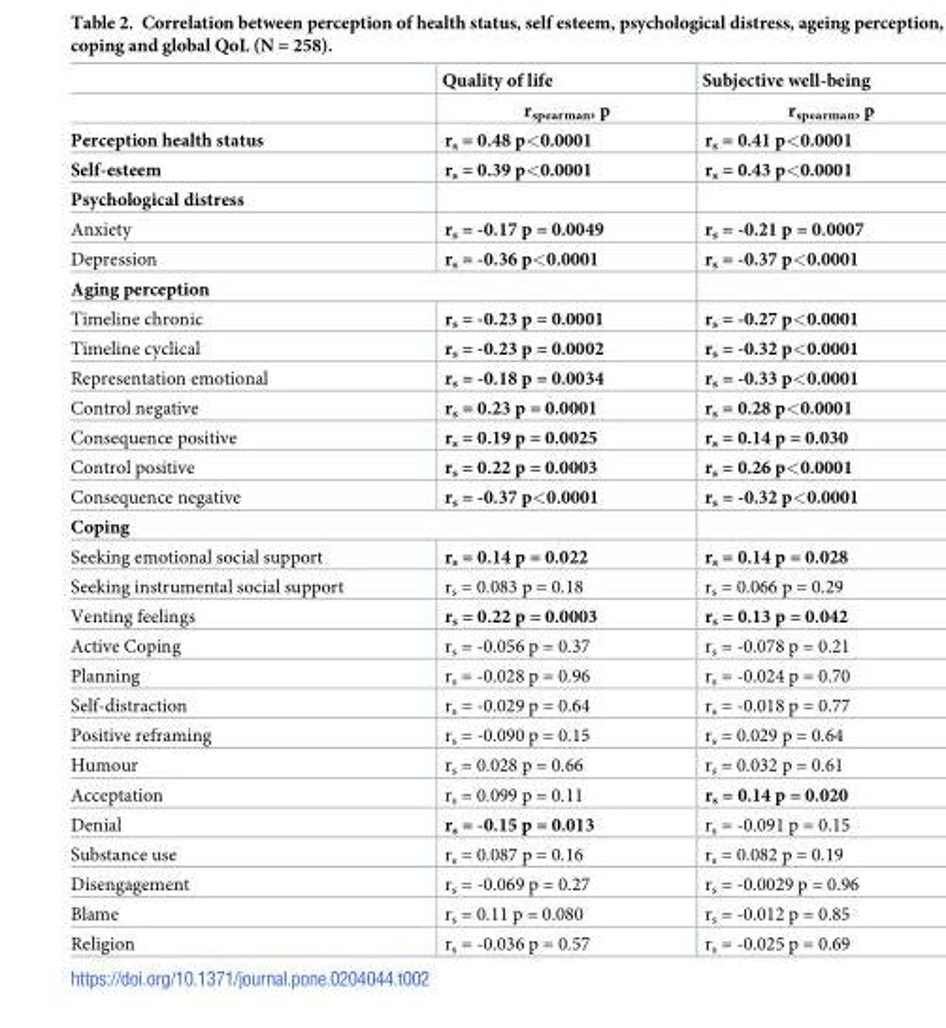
<table><thead><tr><td rowspan="2"></td><td rowspan="2">Quality of life r<sub>spearman</sub>, p</td><td rowspan="2">Subjective well-being r<sub>spearman</sub>, p</td></tr><tr></tr></thead><tbody><tr><td>Perception health status</td><td>r<sub>s</sub> = 0.48 p&lt;0.0001</td><td>r<sub>s</sub> = 0.41 p&lt;0.0001</td></tr><tr><td>Self-esteem</td><td>r<sub>s</sub> = 0.39 p&lt;0.0001</td><td>r<sub>s</sub> = 0.43 p&lt;0.0001</td></tr><tr><td colspan="3">Psychological distress</td></tr><tr><td>Anxiety</td><td>r<sub>s</sub> = -0.17 p = 0.0049</td><td>r<sub>s</sub> = -0.21 p = 0.0007</td></tr><tr><td>Depression</td><td>r<sub>s</sub> = -0.36 p&lt;0.0001</td><td>r<sub>s</sub> = -0.37 p&lt;0.0001</td></tr><tr><td colspan="3">Aging perception</td></tr><tr><td>Timeline chronic</td><td>r<sub>s</sub> = -0.23 p = 0.0001</td><td>r<sub>s</sub> = -0.27 p&lt;0.0001</td></tr><tr><td>Timeline cyclical</td><td>r<sub>s</sub> = -0.23 p = 0.0002</td><td>r<sub>s</sub> = -0.32 p&lt;0.0001</td></tr><tr><td>Representation emotional</td><td>r<sub>s</sub> = -0.18 p = 0.0034</td><td>r<sub>s</sub> = -0.33 p&lt;0.0001</td></tr><tr><td>Control negative</td><td>r<sub>s</sub> = 0.23 p = 0.0001</td><td>r<sub>s</sub> = 0.28 p&lt;0.0001</td></tr><tr><td>Consequence positive</td><td>r<sub>s</sub> = 0.19 p = 0.0025</td><td>r<sub>s</sub> = 0.14 p = 0.030</td></tr><tr><td>Control positive</td><td>r<sub>s</sub> = 0.22 p = 0.0003</td><td>r<sub>s</sub> = 0.26 p&lt;0.0001</td></tr><tr><td>Consequence negative</td><td>r<sub>s</sub> = -0.37 p&lt;0.0001</td><td>r<sub>s</sub> = -0.32 p&lt;0.0001</td></tr><tr><td colspan="3">Coping</td></tr><tr><td>Seeking emotional social support</td><td>r<sub>s</sub> = 0.14 p = 0.022</td><td>r<sub>s</sub> = 0.14 p = 0.028</td></tr><tr><td>Seeking instrumental social support</td><td>r<sub>s</sub> = 0.083 p = 0.18</td><td>r<sub>s</sub> = 0.066 p = 0.29</td></tr><tr><td>Venting feelings</td><td>r<sub>s</sub> = 0.22 p = 0.0003</td><td>r<sub>s</sub> = 0.13 p = 0.042</td></tr><tr><td>Active Coping</td><td>r<sub>s</sub> = -0.056 p = 0.37</td><td>r<sub>s</sub> = -0.078 p = 0.21</td></tr><tr><td>Planning</td><td>r<sub>s</sub> = -0.028 p = 0.96</td><td>r<sub>s</sub> = -0.024 p = 0.70</td></tr><tr><td>Self-distraction</td><td>r<sub>s</sub> = -0.029 p = 0.64</td><td>r<sub>s</sub> = -0.018 p = 0.77</td></tr><tr><td>Positive reframing</td><td>r<sub>s</sub> = -0.090 p = 0.15</td><td>r<sub>s</sub> = 0.029 p = 0.64</td></tr><tr><td>Humour</td><td>r<sub>s</sub> = 0.028 p = 0.66</td><td>r<sub>s</sub> = 0.032 p = 0.61</td></tr><tr><td>Acceptation</td><td>r<sub>s</sub> = 0.099 p = 0.11</td><td>r<sub>s</sub> = 0.14 p = 0.020</td></tr><tr><td>Denial</td><td>r<sub>s</sub> = -0.15 p = 0.013</td><td>r<sub>s</sub> = -0.091 p = 0.15</td></tr><tr><td>Substance use</td><td>r<sub>s</sub> = 0.087 p = 0.16</td><td>r<sub>s</sub> = 0.082 p = 0.19</td></tr><tr><td>Disengagement</td><td>r<sub>s</sub> = -0.069 p = 0.27</td><td>r<sub>s</sub> = -0.0029 p = 0.96</td></tr><tr><td>Blame</td><td>r<sub>s</sub> = 0.11 p = 0.080</td><td>r<sub>s</sub> = -0.012 p = 0.85</td></tr><tr><td>Religion</td><td>r<sub>s</sub> = -0.036 p = 0.57</td><td>r<sub>s</sub> = -0.025 p = 0.69</td></tr></tbody></table>